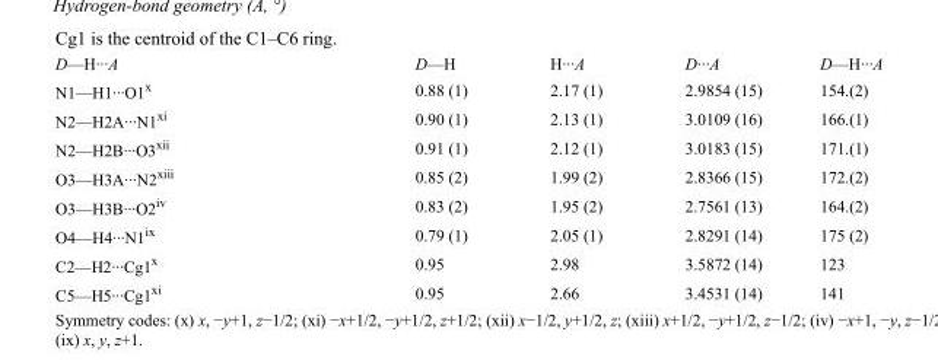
<table><tbody><tr><td>D—H···A</td><td>D—H</td><td>H···A</td><td>D···A</td><td>D—H···A</td></tr><tr><td>N1—H1···O1<sup>x</sup></td><td>0.88 (1)</td><td>2.17 (1)</td><td>2.9854 (15)</td><td>154.(2)</td></tr><tr><td>N2—H2A···N1<sup>xi</sup></td><td>0.90 (1)</td><td>2.13 (1)</td><td>3.0109 (16)</td><td>166.(1)</td></tr><tr><td>N2—H2B···O3<sup>xii</sup></td><td>0.91 (1)</td><td>2.12 (1)</td><td>3.0183 (15)</td><td>171.(1)</td></tr><tr><td>O3—H3A···N2<sup>xiii</sup></td><td>0.85 (2)</td><td>1.99 (2)</td><td>2.8366 (15)</td><td>172.(2)</td></tr><tr><td>O3—H3B···O2<sup>iv</sup></td><td>0.83 (2)</td><td>1.95 (2)</td><td>2.7561 (13)</td><td>164.(2)</td></tr><tr><td>O4—H4···N1<sup>ix</sup></td><td>0.79 (1)</td><td>2.05 (1)</td><td>2.8291 (14)</td><td>175 (2)</td></tr><tr><td>C2—H2···Cg1<sup>x</sup></td><td>0.95</td><td>2.98</td><td>3.5872 (14)</td><td>123</td></tr><tr><td>C5—H5···Cg1<sup>xi</sup></td><td>0.95</td><td>2.66</td><td>3.4531 (14)</td><td>141</td></tr></tbody></table>